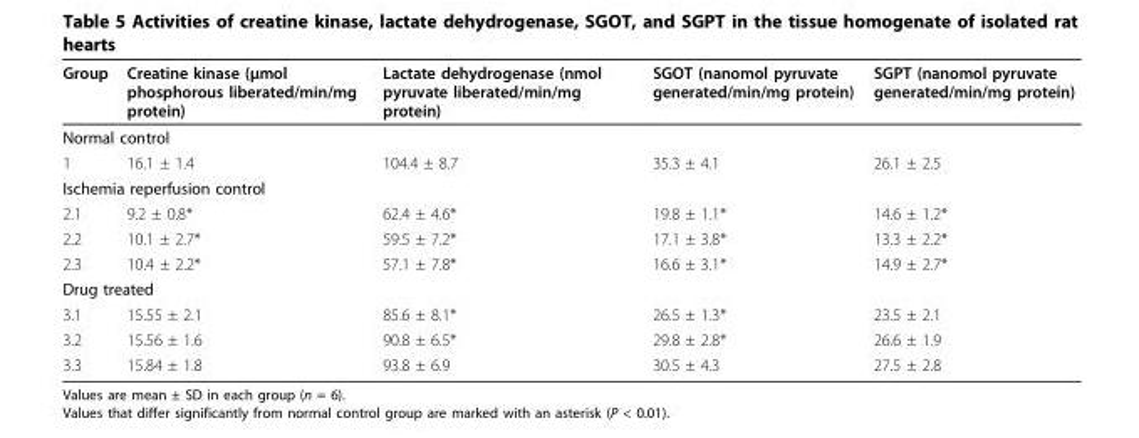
<table><thead><tr><td>Group</td><td>Creatine kinase (μmol phosphorous liberated/min/mg protein)</td><td>Lactate dehydrogenase (nmol pyruvate liberated/min/mg protein)</td><td>SGOT (nanomol pyruvate generated/min/mg protein)</td><td>SGPT (nanomol pyruvate generated/min/mg protein)</td></tr></thead><tbody><tr><td colspan="5">Normal control</td></tr><tr><td>1</td><td>16.1 ± 1.4</td><td>104.4 ± 8.7</td><td>35.3 ± 4.1</td><td>26.1 ± 2.5</td></tr><tr><td colspan="5">Ischemia reperfusion control</td></tr><tr><td>2.1</td><td>9.2 ± 0.8*</td><td>62.4 ± 4.6*</td><td>19.8 ± 1.1*</td><td>14.6 ± 1.2*</td></tr><tr><td>2.2</td><td>10.1 ± 2.7*</td><td>59.5 ± 7.2*</td><td>17.1 ± 3.8*</td><td>13.3 ± 2.2*</td></tr><tr><td>2.3</td><td>10.4 ± 2.2*</td><td>57.1 ± 7.8*</td><td>16.6 ± 3.1*</td><td>14.9 ± 2.7*</td></tr><tr><td colspan="5">Drug treated</td></tr><tr><td>3.1</td><td>15.55 ± 2.1</td><td>85.6 ± 8.1*</td><td>26.5 ± 1.3*</td><td>23.5 ± 2.1</td></tr><tr><td>3.2</td><td>15.56 ± 1.6</td><td>90.8 ± 6.5*</td><td>29.8 ± 2.8*</td><td>26.6 ± 1.9</td></tr><tr><td>3.3</td><td>15.84 ± 1.8</td><td>93.8 ± 6.9</td><td>30.5 ± 4.3</td><td>27.5 ± 2.8</td></tr></tbody></table>